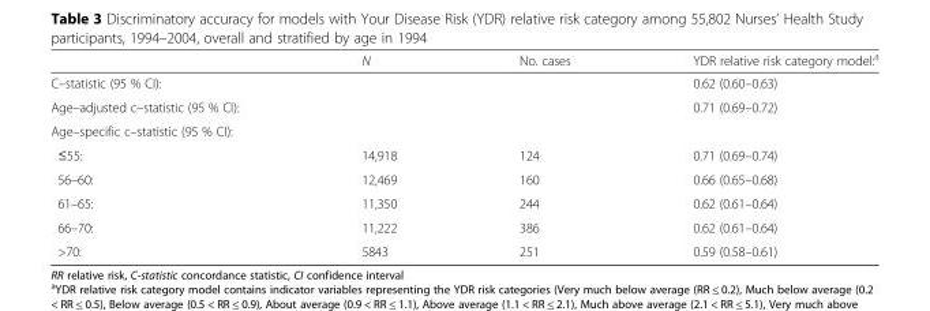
<table><thead><tr><td></td><td>N</td><td>No. cases</td><td>YDR relative risk category model:<sup>a</sup></td></tr></thead><tbody><tr><td>C–statistic (95 % CI):</td><td></td><td></td><td>0.62 (0.60–0.63)</td></tr><tr><td>Age–adjusted c–statistic (95 % CI):</td><td></td><td></td><td>0.71 (0.69–0.72)</td></tr><tr><td colspan="4">Age–specific c–statistic (95 % CI):</td></tr><tr><td>≤55:</td><td>14,918</td><td>124</td><td>0.71 (0.69–0.74)</td></tr><tr><td>56–60:</td><td>12,469</td><td>160</td><td>0.66 (0.65–0.68)</td></tr><tr><td>61–65:</td><td>11,350</td><td>244</td><td>0.62 (0.61–0.64)</td></tr><tr><td>66–70:</td><td>11,222</td><td>386</td><td>0.62 (0.61–0.64)</td></tr><tr><td>&gt;70:</td><td>5843</td><td>251</td><td>0.59 (0.58–0.61)</td></tr></tbody></table>